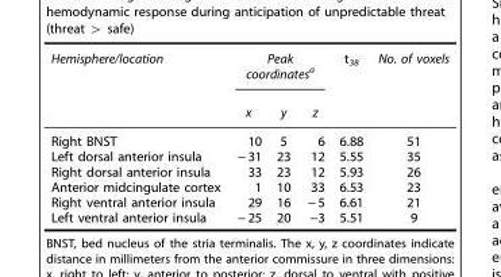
<table><thead><tr><td rowspan="2">Hemisphere/location</td><td colspan="3">Peak coordinates<sup>a</sup></td><td rowspan="2">t<sub>38</sub></td><td rowspan="2">No. of voxels</td></tr><tr><td>x</td><td>y</td><td>z</td></tr></thead><tbody><tr><td>Right BNST</td><td>10</td><td>5</td><td>6</td><td>6.88</td><td>51</td></tr><tr><td>Left dorsal anterior insula</td><td>− 31</td><td>23</td><td>12</td><td>5.55</td><td>35</td></tr><tr><td>Right dorsal anterior insula</td><td>33</td><td>23</td><td>12</td><td>5.93</td><td>26</td></tr><tr><td>Anterior midcingulate cortex</td><td>1</td><td>10</td><td>33</td><td>6.53</td><td>23</td></tr><tr><td>Right ventral anterior insula</td><td>29</td><td>16</td><td>− 5</td><td>6.61</td><td>21</td></tr><tr><td>Left ventral anterior insula</td><td>− 25</td><td>20</td><td>−3</td><td>5.51</td><td>9</td></tr></tbody></table>